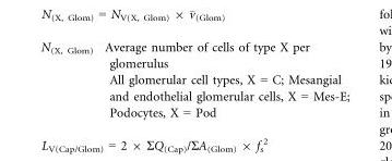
<table><tbody><tr><td>N<sub>(X, Glom)</sub></td><td>Average number of cells of type X per glomerulus All glomerular cell types, X = C; Mesangial and endothelial glomerular cells, X = Mes-E; Podocytes, X = Pod</td></tr></tbody></table>